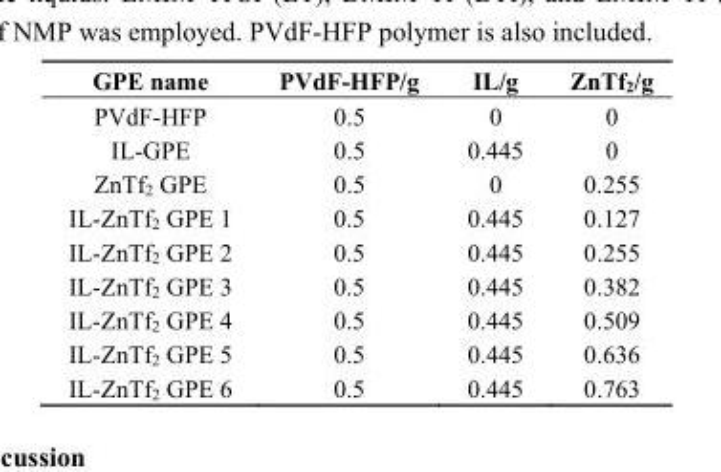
<table><thead><tr><td>GPE name</td><td>PVdF-HFP/g</td><td>IL/g</td><td>ZnTf<sub>2</sub>/g</td></tr></thead><tbody><tr><td>PVdF-HFP</td><td>0.5</td><td>0</td><td>0</td></tr><tr><td>IL-GPE</td><td>0.5</td><td>0.445</td><td>0</td></tr><tr><td>ZnTf<sub>2</sub> GPE</td><td>0.5</td><td>0</td><td>0.255</td></tr><tr><td>IL-ZnTf<sub>2</sub> GPE 1</td><td>0.5</td><td>0.445</td><td>0.127</td></tr><tr><td>IL-ZnTf<sub>2</sub> GPE 2</td><td>0.5</td><td>0.445</td><td>0.255</td></tr><tr><td>IL-ZnTf<sub>2</sub> GPE 3</td><td>0.5</td><td>0.445</td><td>0.382</td></tr><tr><td>IL-ZnTf<sub>2</sub> GPE 4</td><td>0.5</td><td>0.445</td><td>0.509</td></tr><tr><td>IL-ZnTf<sub>2</sub> GPE 5</td><td>0.5</td><td>0.445</td><td>0.636</td></tr><tr><td>IL-ZnTf<sub>2</sub> GPE 6</td><td>0.5</td><td>0.445</td><td>0.763</td></tr></tbody></table>